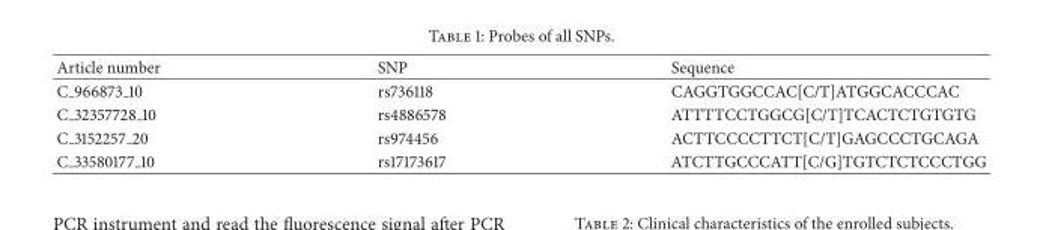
<table><thead><tr><td>Article number</td><td>SNP</td><td>Sequence</td></tr></thead><tbody><tr><td>C <sub>966873</sub> 10</td><td>rs736118</td><td>CAGGTGGCCAC[C/T]ATGGCACCCAC</td></tr><tr><td>C <sub>32357728</sub> 10</td><td>rs4886578</td><td>ATTTTCCTGGCG[C/T]TCACTCTGTGTG</td></tr><tr><td>C <sub>3152257</sub> 20</td><td>rs974456</td><td>ACTTCCCCTTCT[C/T]GAGCCCTGCAGA</td></tr><tr><td>C <sub>33580177</sub> 10</td><td>rs17173617</td><td>ATCTTGCCCATT[C/G]TGTCTCTCCCTGG</td></tr></tbody></table>